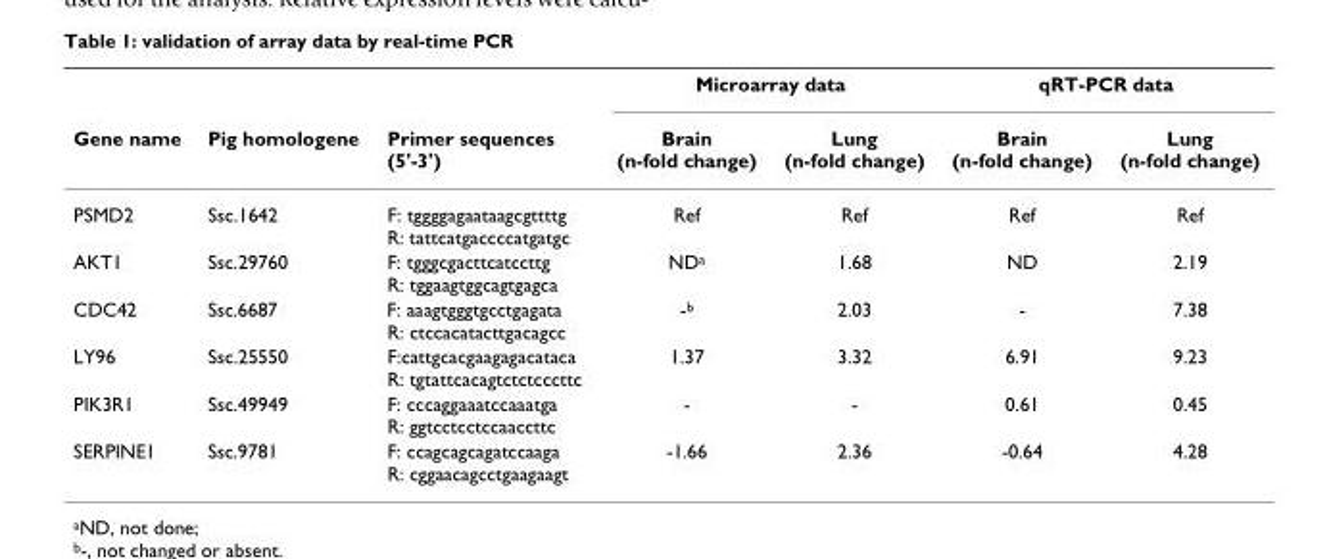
<table><thead><tr><td rowspan="2">Gene name</td><td rowspan="2">Pig homologene</td><td rowspan="2">Primer sequences (5&#x27;-3&#x27;)</td><td colspan="2">Microarray data</td><td colspan="2">qRT-PCR data</td></tr><tr><td>Brain (n-fold change)</td><td>Lung (n-fold change)</td><td>Brain (n-fold change)</td><td>Lung (n-fold change)</td></tr></thead><tbody><tr><td>PSMD2</td><td>Ssc.1642</td><td>F: tggggagaataagcgttttg R: tattcatgaccccatgatgc</td><td>Ref</td><td>Ref</td><td>Ref</td><td>Ref</td></tr><tr><td>AKT1</td><td>Ssc.29760</td><td>F: tgggcgacttcatccttg R: tggaagtggcagtgagca</td><td>ND<sup>a</sup></td><td>1.68</td><td>ND</td><td>2.19</td></tr><tr><td>CDC42</td><td>Ssc.6687</td><td>F: aaagtgggtgcctgagata R: ctccacatacttgacagcc</td><td>-<sup>b</sup></td><td>2.03</td><td>-</td><td>7.38</td></tr><tr><td>LY96</td><td>Ssc.25550</td><td>F:cattgcacgaagagacataca R: tgtattcacagtctctcccttc</td><td>1.37</td><td>3.32</td><td>6.91</td><td>9.23</td></tr><tr><td>PIK3R1</td><td>Ssc.49949</td><td>F: cccaggaaatccaaatga R: ggtcctcctccaaccttc</td><td>-</td><td>-</td><td>0.61</td><td>0.45</td></tr><tr><td>SERPINE1</td><td>Ssc.9781</td><td>F: ccagcagcagatccaaga R: cggaacagcctgaagaagt</td><td>-1.66</td><td>2.36</td><td>-0.64</td><td>4.28</td></tr></tbody></table>